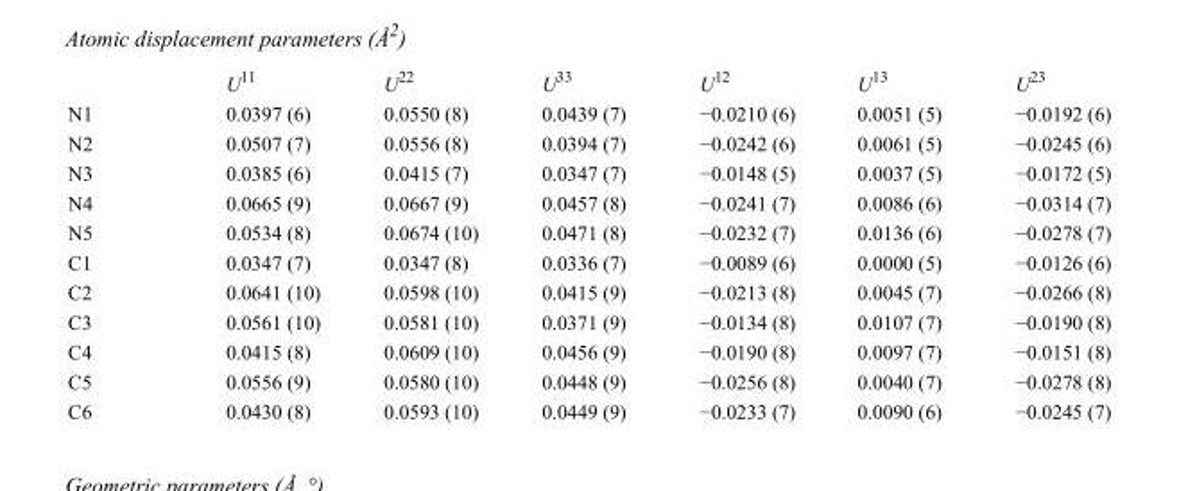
<table><thead><tr><td></td><td>U<sup>11</sup></td><td>U<sup>22</sup></td><td>U<sup>33</sup></td><td>U<sup>12</sup></td><td>U<sup>13</sup></td><td>U<sup>23</sup></td></tr></thead><tbody><tr><td>N1</td><td>0.0397 (6)</td><td>0.0550 (8)</td><td>0.0439 (7)</td><td>−0.0210 (6)</td><td>0.0051 (5)</td><td>−0.0192 (6)</td></tr><tr><td>N2</td><td>0.0507 (7)</td><td>0.0556 (8)</td><td>0.0394 (7)</td><td>−0.0242 (6)</td><td>0.0061 (5)</td><td>−0.0245 (6)</td></tr><tr><td>N3</td><td>0.0385 (6)</td><td>0.0415 (7)</td><td>0.0347 (7)</td><td>−0.0148 (5)</td><td>0.0037 (5)</td><td>−0.0172 (5)</td></tr><tr><td>N4</td><td>0.0665 (9)</td><td>0.0667 (9)</td><td>0.0457 (8)</td><td>−0.0241 (7)</td><td>0.0086 (6)</td><td>−0.0314 (7)</td></tr><tr><td>N5</td><td>0.0534 (8)</td><td>0.0674 (10)</td><td>0.0471 (8)</td><td>−0.0232 (7)</td><td>0.0136 (6)</td><td>−0.0278 (7)</td></tr><tr><td>C1</td><td>0.0347 (7)</td><td>0.0347 (8)</td><td>0.0336 (7)</td><td>−0.0089 (6)</td><td>0.0000 (5)</td><td>−0.0126 (6)</td></tr><tr><td>C2</td><td>0.0641 (10)</td><td>0.0598 (10)</td><td>0.0415 (9)</td><td>−0.0213 (8)</td><td>0.0045 (7)</td><td>−0.0266 (8)</td></tr><tr><td>C3</td><td>0.0561 (10)</td><td>0.0581 (10)</td><td>0.0371 (9)</td><td>−0.0134 (8)</td><td>0.0107 (7)</td><td>−0.0190 (8)</td></tr><tr><td>C4</td><td>0.0415 (8)</td><td>0.0609 (10)</td><td>0.0456 (9)</td><td>−0.0190 (8)</td><td>0.0097 (7)</td><td>−0.0151 (8)</td></tr><tr><td>C5</td><td>0.0556 (9)</td><td>0.0580 (10)</td><td>0.0448 (9)</td><td>−0.0256 (8)</td><td>0.0040 (7)</td><td>−0.0278 (8)</td></tr><tr><td>C6</td><td>0.0430 (8)</td><td>0.0593 (10)</td><td>0.0449 (9)</td><td>−0.0233 (7)</td><td>0.0090 (6)</td><td>−0.0245 (7)</td></tr></tbody></table>